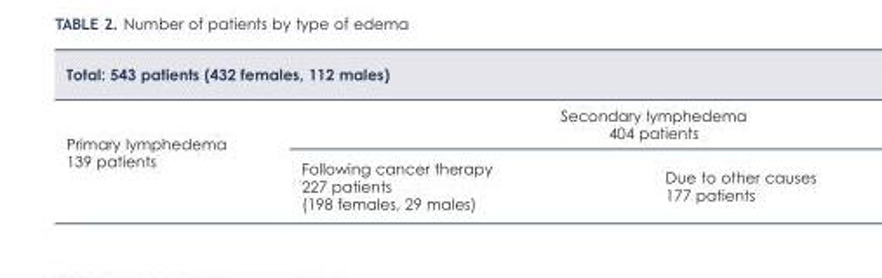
<table><thead><tr><td colspan="2">Total: 543 patients (432 females, 112 males)</td><td></td></tr><tr><td rowspan="2">Primary lymphedema 139 patients</td><td colspan="2">Secondary lymphedema 404 patients</td></tr><tr><td>Following cancer therapy 227 patients (198 females, 29 males)</td><td>Due to other causes 177 patients</td></tr></thead><tbody></tbody></table>